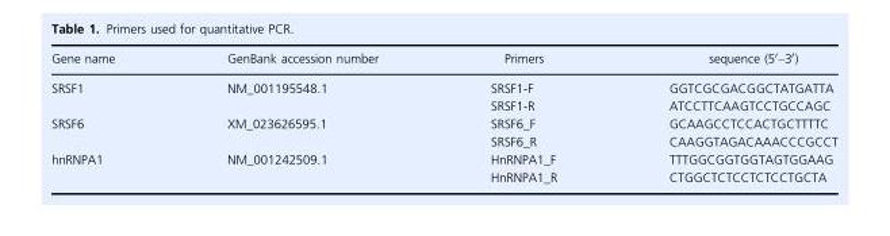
<table><thead><tr><td>Gene name</td><td>GenBank accession number</td><td>Primers</td><td>sequence (5′–3′)</td></tr></thead><tbody><tr><td>SRSF1</td><td>NM_001195548.1</td><td>SRSF1-F SRSF1-R</td><td>GGTCGCGACGGCTATGATTA ATCCTTCAAGTCCTGCCAGC</td></tr><tr><td>SRSF6</td><td>XM_023626595.1</td><td>SRSF6_F SRSF6_R</td><td>GCAAGCCTCCACTGCTTTTC CAAGGTAGACAAACCCGCCT</td></tr><tr><td>hnRNPA1</td><td>NM_001242509.1</td><td>HnRNPA1_F HnRNPA1_R</td><td>TTTGGCGGTGGTAGTGGAAG CTGGCTCTCCTCTCCTGCTA</td></tr></tbody></table>